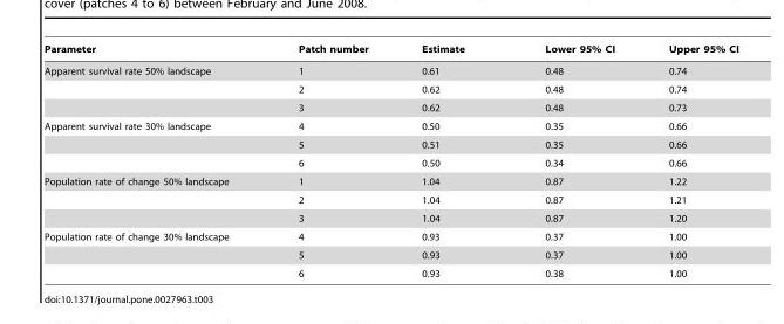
<table><thead><tr><td>Parameter</td><td>Patch number</td><td>Estimate</td><td>Lower 95% CI</td><td>Upper 95% CI</td></tr></thead><tbody><tr><td rowspan="3">Apparent survival rate 50% landscape</td><td>1</td><td>0.61</td><td>0.48</td><td>0.74</td></tr><tr><td>2</td><td>0.62</td><td>0.48</td><td>0.74</td></tr><tr><td>3</td><td>0.62</td><td>0.48</td><td>0.73</td></tr><tr><td rowspan="3">Apparent survival rate 30% landscape</td><td>4</td><td>0.50</td><td>0.35</td><td>0.66</td></tr><tr><td>5</td><td>0.51</td><td>0.35</td><td>0.66</td></tr><tr><td>6</td><td>0.50</td><td>0.34</td><td>0.66</td></tr><tr><td rowspan="3">Population rate of change 50% landscape</td><td>1</td><td>1.04</td><td>0.87</td><td>1.22</td></tr><tr><td>2</td><td>1.04</td><td>0.87</td><td>1.21</td></tr><tr><td>3</td><td>1.04</td><td>0.87</td><td>1.20</td></tr><tr><td rowspan="3">Population rate of change 30% landscape</td><td>4</td><td>0.93</td><td>0.37</td><td>1.00</td></tr><tr><td>5</td><td>0.93</td><td>0.37</td><td>1.00</td></tr><tr><td>6</td><td>0.93</td><td>0.38</td><td>1.00</td></tr></tbody></table>